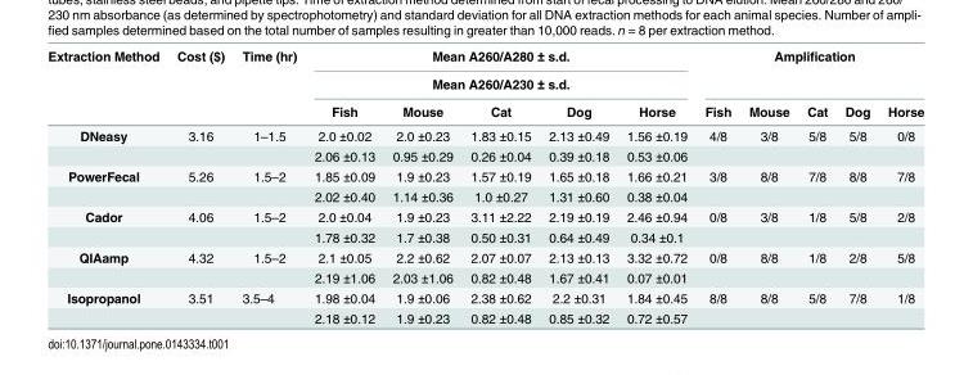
<table><thead><tr><td rowspan="3">Extraction Method</td><td rowspan="3">Cost ($)</td><td rowspan="3">Time (hr)</td><td rowspan="2" colspan="5">Mean A260/A280 ± s.d. Mean A260/A230 ± s.d.</td><td rowspan="2" colspan="5">Amplification</td></tr><tr></tr><tr><td>Fish</td><td>Mouse</td><td>Cat</td><td>Dog</td><td>Horse</td><td>Fish</td><td>Mouse</td><td>Cat</td><td>Dog</td><td>Horse</td></tr></thead><tbody><tr><td rowspan="2">DNeasy</td><td>3.16</td><td>1–1.5</td><td>2.0 ±0.02</td><td>2.0 ±0.23</td><td>1.83 ±0.15</td><td>2.13 ±0.49</td><td>1.56 ±0.19</td><td>4/8</td><td>3/8</td><td>5/8</td><td>5/8</td><td>0/8</td></tr><tr><td></td><td></td><td>2.06 ±0.13</td><td>0.95 ±0.29</td><td>0.26 ±0.04</td><td>0.39 ±0.18</td><td>0.53 ±0.06</td><td></td><td></td><td></td><td></td><td></td></tr><tr><td rowspan="2">PowerFecal</td><td>5.26</td><td>1.5–2</td><td>1.85 ±0.09</td><td>1.9 ±0.23</td><td>1.57 ±0.19</td><td>1.65 ±0.18</td><td>1.66 ±0.21</td><td>3/8</td><td>8/8</td><td>7/8</td><td>8/8</td><td>7/8</td></tr><tr><td></td><td></td><td>2.02 ±0.40</td><td>1.14 ±0.36</td><td>1.0 ±0.27</td><td>1.31 ±0.60</td><td>0.38 ±0.04</td><td></td><td></td><td></td><td></td><td></td></tr><tr><td rowspan="2">Cador</td><td>4.06</td><td>1.5–2</td><td>2.0 ±0.04</td><td>1.9 ±0.23</td><td>3.11 ±2.22</td><td>2.19 ±0.19</td><td>2.46 ±0.94</td><td>0/8</td><td>3/8</td><td>1/8</td><td>5/8</td><td>2/8</td></tr><tr><td></td><td></td><td>1.78 ±0.32</td><td>1.7 ±0.38</td><td>0.50 ±0.31</td><td>0.64 ±0.49</td><td>0.34 ±0.1</td><td></td><td></td><td></td><td></td><td></td></tr><tr><td rowspan="2">QIAamp</td><td>4.32</td><td>1.5–2</td><td>2.1 ±0.05</td><td>2.2 ±0.62</td><td>2.07 ±0.07</td><td>2.13 ±0.13</td><td>3.32 ±0.72</td><td>0/8</td><td>8/8</td><td>1/8</td><td>2/8</td><td>5/8</td></tr><tr><td></td><td></td><td>2.19 ±1.06</td><td>2.03 ±1.06</td><td>0.82 ±0.48</td><td>1.67 ±0.41</td><td>0.07 ±0.01</td><td></td><td></td><td></td><td></td><td></td></tr><tr><td rowspan="2">Isopropanol</td><td>3.51</td><td>3.5–4</td><td>1.98 ±0.04</td><td>1.9 ±0.06</td><td>2.38 ±0.62</td><td>2.2 ±0.31</td><td>1.84 ±0.45</td><td>8/8</td><td>8/8</td><td>5/8</td><td>7/8</td><td>1/8</td></tr><tr><td></td><td></td><td>2.18 ±0.12</td><td>1.9 ±0.23</td><td>0.82 ±0.48</td><td>0.85 ±0.32</td><td>0.72 ±0.57</td><td></td><td></td><td></td><td></td><td></td></tr></tbody></table>